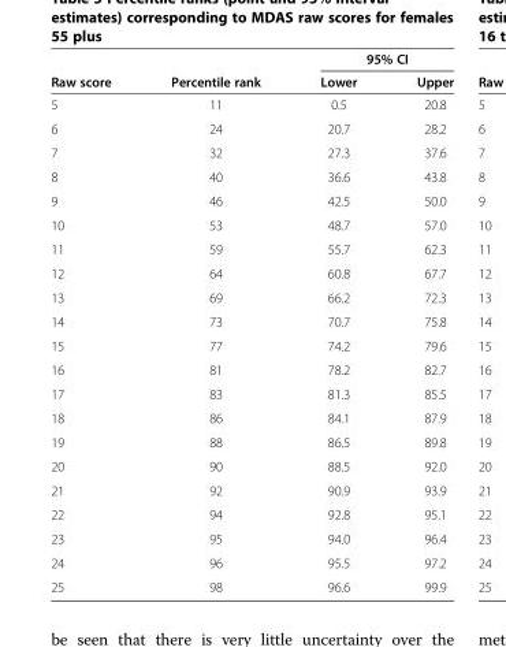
<table><thead><tr><td rowspan="2">Raw score</td><td rowspan="2">Percentile rank</td><td colspan="2">95% CI</td></tr><tr><td>Lower</td><td>Upper</td></tr></thead><tbody><tr><td>5</td><td>11</td><td>0.5</td><td>20.8</td></tr><tr><td>6</td><td>24</td><td>20.7</td><td>28.2</td></tr><tr><td>7</td><td>32</td><td>27.3</td><td>37.6</td></tr><tr><td>8</td><td>40</td><td>36.6</td><td>43.8</td></tr><tr><td>9</td><td>46</td><td>42.5</td><td>50.0</td></tr><tr><td>10</td><td>53</td><td>48.7</td><td>57.0</td></tr><tr><td>11</td><td>59</td><td>55.7</td><td>62.3</td></tr><tr><td>12</td><td>64</td><td>60.8</td><td>67.7</td></tr><tr><td>13</td><td>69</td><td>66.2</td><td>72.3</td></tr><tr><td>14</td><td>73</td><td>70.7</td><td>75.8</td></tr><tr><td>15</td><td>77</td><td>74.2</td><td>79.6</td></tr><tr><td>16</td><td>81</td><td>78.2</td><td>82.7</td></tr><tr><td>17</td><td>83</td><td>81.3</td><td>85.5</td></tr><tr><td>18</td><td>86</td><td>84.1</td><td>87.9</td></tr><tr><td>19</td><td>88</td><td>86.5</td><td>89.8</td></tr><tr><td>20</td><td>90</td><td>88.5</td><td>92.0</td></tr><tr><td>21</td><td>92</td><td>90.9</td><td>93.9</td></tr><tr><td>22</td><td>94</td><td>92.8</td><td>95.1</td></tr><tr><td>23</td><td>95</td><td>94.0</td><td>96.4</td></tr><tr><td>24</td><td>96</td><td>95.5</td><td>97.2</td></tr><tr><td>25</td><td>98</td><td>96.6</td><td>99.9</td></tr></tbody></table>